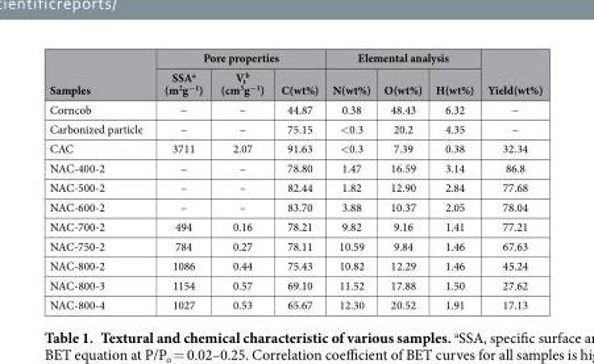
<table><thead><tr><td rowspan="2">Samples</td><td colspan="3">Pore properties</td><td colspan="3">Elemental analysis</td><td rowspan="2">Yield(wt%)</td></tr><tr><td>SSA<sup>a</sup> (m<sup>2</sup>g<sup>−1</sup>)</td><td>V<sub>t</sub> <sup>b</sup> (cm<sup>3</sup>g<sup>−1</sup>)</td><td>C(wt%)</td><td>N(wt%)</td><td>O(wt%)</td><td>H(wt%)</td></tr></thead><tbody><tr><td>Corncob</td><td>–</td><td>–</td><td>44.87</td><td>0.38</td><td>48.43</td><td>6.32</td><td>–</td></tr><tr><td>Carbonized particle</td><td>–</td><td>–</td><td>75.15</td><td>&lt; 0.3</td><td>20.2</td><td>4.35</td><td>–</td></tr><tr><td>CAC</td><td>3711</td><td>2.07</td><td>91.63</td><td>&lt; 0.3</td><td>7.39</td><td>0.38</td><td>32.34</td></tr><tr><td>NAC-400-2</td><td>–</td><td>–</td><td>78.80</td><td>1.47</td><td>16.59</td><td>3.14</td><td>86.8</td></tr><tr><td>NAC-500-2</td><td>–</td><td>–</td><td>82.44</td><td>1.82</td><td>12.90</td><td>2.84</td><td>77.68</td></tr><tr><td>NAC-600-2</td><td>–</td><td>–</td><td>83.70</td><td>3.88</td><td>10.37</td><td>2.05</td><td>78.04</td></tr><tr><td>NAC-700-2</td><td>494</td><td>0.16</td><td>78.21</td><td>9.82</td><td>9.16</td><td>1.41</td><td>77.21</td></tr><tr><td>NAC-750-2</td><td>784</td><td>0.27</td><td>78.11</td><td>10.59</td><td>9.84</td><td>1.46</td><td>67.63</td></tr><tr><td>NAC-800-2</td><td>1086</td><td>0.44</td><td>75.43</td><td>10.82</td><td>12.29</td><td>1.46</td><td>45.24</td></tr><tr><td>NAC-800-3</td><td>1154</td><td>0.57</td><td>69.10</td><td>11.52</td><td>17.88</td><td>1.50</td><td>27.62</td></tr><tr><td>NAC-800-4</td><td>1027</td><td>0.53</td><td>65.67</td><td>12.30</td><td>20.52</td><td>1.91</td><td>17.13</td></tr></tbody></table>